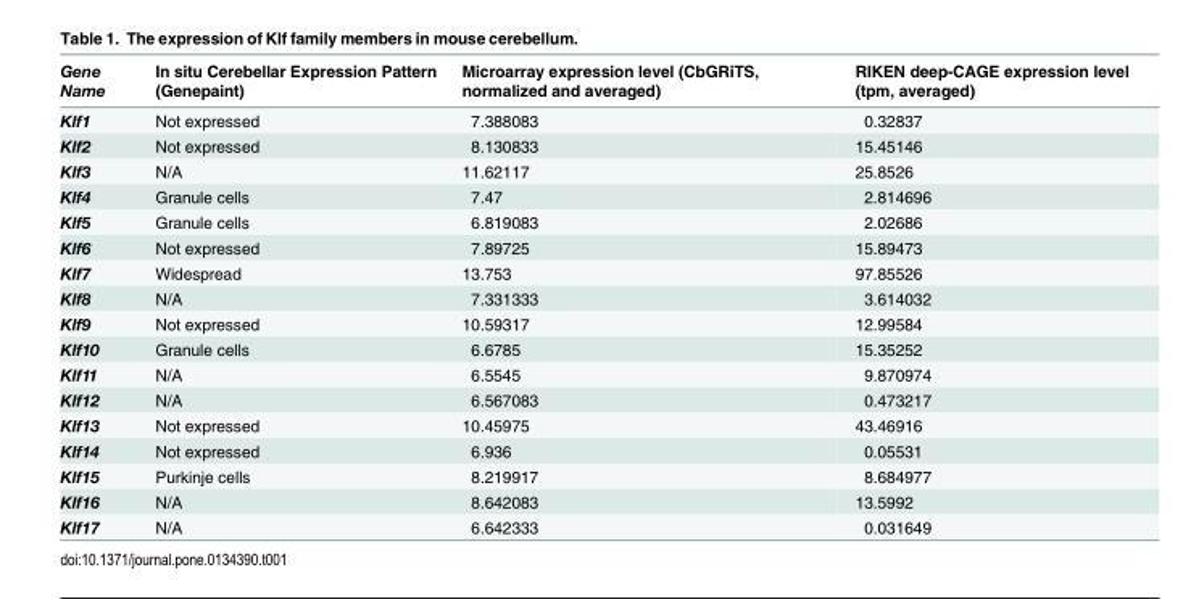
<table><thead><tr><td>Gene Name</td><td>In situ Cerebellar Expression Pattern (Genepaint)</td><td>Microarray expression level (CbGRiTS, normalized and averaged)</td><td>RIKEN deep-CAGE expression level (tpm, averaged)</td></tr></thead><tbody><tr><td>Klf1</td><td>Not expressed</td><td>7.388083</td><td>0.32837</td></tr><tr><td>Klf2</td><td>Not expressed</td><td>8.130833</td><td>15.45146</td></tr><tr><td>Klf3</td><td>N/A</td><td>11.62117</td><td>25.8526</td></tr><tr><td>Klf4</td><td>Granule cells</td><td>7.47</td><td>2.814696</td></tr><tr><td>Klf5</td><td>Granule cells</td><td>6.819083</td><td>2.02686</td></tr><tr><td>Klf6</td><td>Not expressed</td><td>7.89725</td><td>15.89473</td></tr><tr><td>Klf7</td><td>Widespread</td><td>13.753</td><td>97.85526</td></tr><tr><td>Klf8</td><td>N/A</td><td>7.331333</td><td>3.614032</td></tr><tr><td>Klf9</td><td>Not expressed</td><td>10.59317</td><td>12.99584</td></tr><tr><td>Klf10</td><td>Granule cells</td><td>6.6785</td><td>15.35252</td></tr><tr><td>Klf11</td><td>N/A</td><td>6.5545</td><td>9.870974</td></tr><tr><td>Klf12</td><td>N/A</td><td>6.567083</td><td>0.473217</td></tr><tr><td>Klf13</td><td>Not expressed</td><td>10.45975</td><td>43.46916</td></tr><tr><td>Klf14</td><td>Not expressed</td><td>6.936</td><td>0.05531</td></tr><tr><td>Klf15</td><td>Purkinje cells</td><td>8.219917</td><td>8.684977</td></tr><tr><td>Klf16</td><td>N/A</td><td>8.642083</td><td>13.5992</td></tr><tr><td>Klf17</td><td>N/A</td><td>6.642333</td><td>0.031649</td></tr></tbody></table>